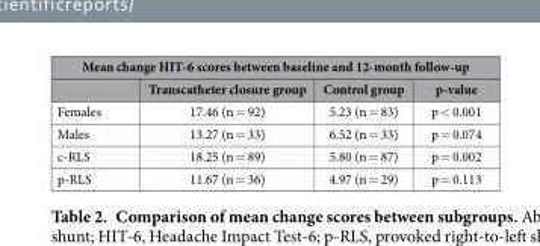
<table><thead><tr><td colspan="4">Mean change HIT-6 scores between baseline and 12-month follow-up</td></tr><tr><td></td><td>Transcatheter closure group</td><td>Control group</td><td>p-value</td></tr></thead><tbody><tr><td>Females</td><td>17.46 (n = 92)</td><td>5.23 (n = 83)</td><td>p &lt; 0.001</td></tr><tr><td>Males</td><td>13.27 (n = 33)</td><td>6.52 (n = 33)</td><td>p = 0.074</td></tr><tr><td>c-RLS</td><td>18.25 (n = 89)</td><td>5.80 (n = 87)</td><td>p = 0.002</td></tr><tr><td>p-RLS</td><td>11.67 (n = 36)</td><td>4.97 (n = 29)</td><td>p = 0.113</td></tr></tbody></table>